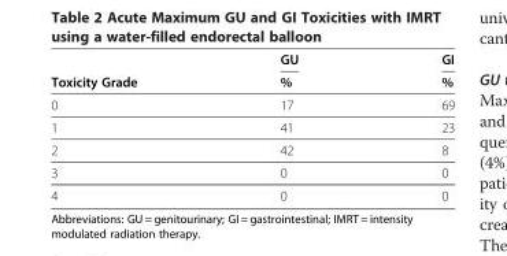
<table><thead><tr><td rowspan="2">Toxicity Grade</td><td rowspan="2">GU %</td><td rowspan="2">GI %</td></tr><tr></tr></thead><tbody><tr><td>0</td><td>17</td><td>69</td></tr><tr><td>1</td><td>41</td><td>23</td></tr><tr><td>2</td><td>42</td><td>8</td></tr><tr><td>3</td><td>0</td><td>0</td></tr><tr><td>4</td><td>0</td><td>0</td></tr></tbody></table>